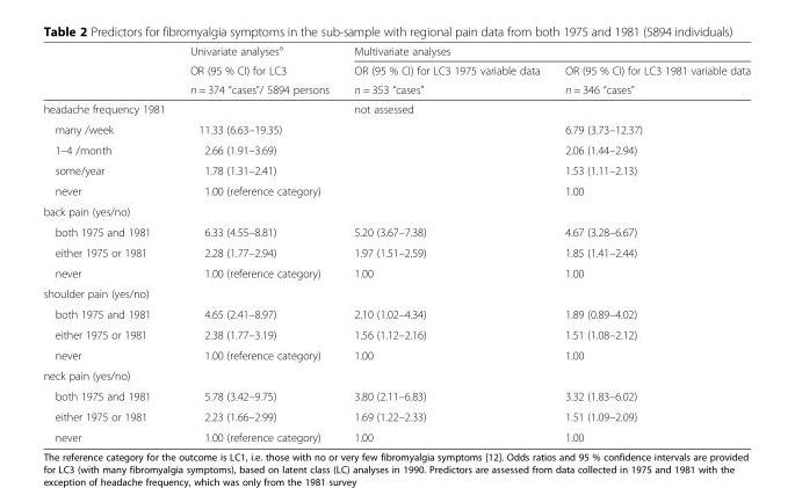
<table><thead><tr><td rowspan="3"></td><td rowspan="3">Univariate analyses<sup>a</sup> OR (95 % CI) for LC3 n = 374 “cases”/ 5894 persons</td><td colspan="2">Multivariate analyses</td></tr><tr><td rowspan="2">OR (95 % CI) for LC3 1975 variable data n = 353 “cases”</td><td rowspan="2">OR (95 % CI) for LC3 1981 variable data n = 346 “cases”</td></tr><tr></tr></thead><tbody><tr><td>headache frequency 1981</td><td></td><td>not assessed</td><td></td></tr><tr><td>many /week</td><td>11.33 (6.63–19.35)</td><td></td><td>6.79 (3.73–12.37)</td></tr><tr><td>1–4 /month</td><td>2.66 (1.91–3.69)</td><td></td><td>2.06 (1.44–2.94)</td></tr><tr><td>some/year</td><td>1.78 (1.31–2.41)</td><td></td><td>1.53 (1.11–2.13)</td></tr><tr><td>never</td><td>1.00 (reference category)</td><td></td><td>1.00</td></tr><tr><td colspan="4">back pain (yes/no)</td></tr><tr><td>both 1975 and 1981</td><td>6.33 (4.55–8.81)</td><td>5.20 (3.67–7.38)</td><td>4.67 (3.28–6.67)</td></tr><tr><td>either 1975 or 1981</td><td>2.28 (1.77–2.94)</td><td>1.97 (1.51–2.59)</td><td>1.85 (1.41–2.44)</td></tr><tr><td>never</td><td>1.00 (reference category)</td><td>1.00</td><td>1.00</td></tr><tr><td colspan="4">shoulder pain (yes/no)</td></tr><tr><td>both 1975 and 1981</td><td>4.65 (2.41–8.97)</td><td>2.10 (1.02–4.34)</td><td>1.89 (0.89–4.02)</td></tr><tr><td>either 1975 or 1981</td><td>2.38 (1.77–3.19)</td><td>1.56 (1.12–2.16)</td><td>1.51 (1.08–2.12)</td></tr><tr><td>never</td><td>1.00 (reference category)</td><td>1.00</td><td>1.00</td></tr><tr><td colspan="4">neck pain (yes/no)</td></tr><tr><td>both 1975 and 1981</td><td>5.78 (3.42–9.75)</td><td>3.80 (2.11–6.83)</td><td>3.32 (1.83–6.02)</td></tr><tr><td>either 1975 or 1981</td><td>2.23 (1.66–2.99)</td><td>1.69 (1.22–2.33)</td><td>1.51 (1.09–2.09)</td></tr><tr><td>never</td><td>1.00 (reference category)</td><td>1.00</td><td>1.00</td></tr></tbody></table>